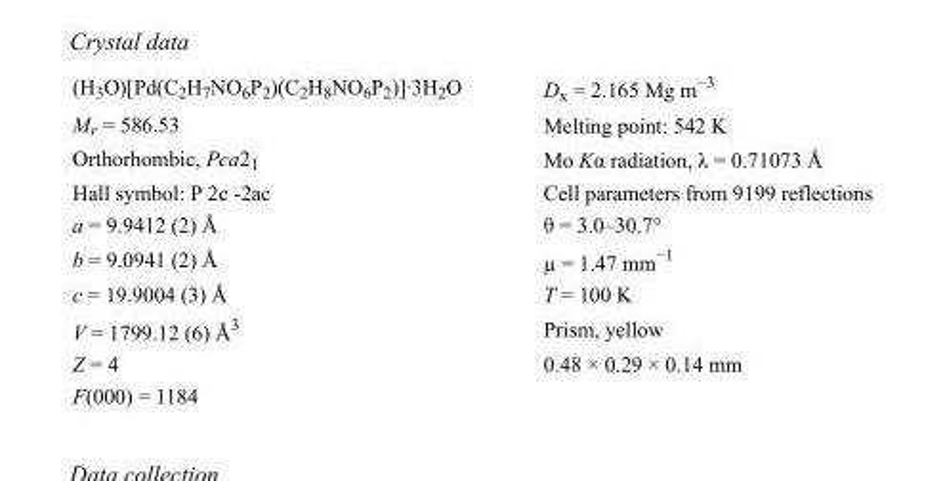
<table><tbody><tr><td>(H<sub>3</sub>O)[Pd(C<sub>2</sub>H<sub>7</sub>NO<sub>6</sub>P<sub>2</sub>)(C<sub>2</sub>H<sub>8</sub>NO<sub>6</sub>P<sub>2</sub>)]·3H<sub>2</sub>O</td><td>D<sub>x</sub> = 2.165 Mg m<sup>−3</sup></td></tr><tr><td>M<sub>r</sub> = 586.53</td><td>Melting point: 542 K</td></tr><tr><td>Orthorhombic, Pca2<sub>1</sub></td><td>Mo Kα radiation, λ = 0.71073 Å</td></tr><tr><td>Hall symbol: P 2c -2ac</td><td>Cell parameters from 9199 reflections</td></tr><tr><td>a = 9.9412 (2) Å</td><td>θ = 3.0–30.7°</td></tr><tr><td>b = 9.0941 (2) Å</td><td>µ = 1.47 mm<sup>−1</sup></td></tr><tr><td>c = 19.9004 (3) Å</td><td>T = 100 K</td></tr><tr><td>V = 1799.12 (6) Å<sup>3</sup></td><td>Prism, yellow</td></tr><tr><td>Z = 4</td><td>0.48 × 0.29 × 0.14 mm</td></tr><tr><td>F(000) = 1184</td><td></td></tr></tbody></table>